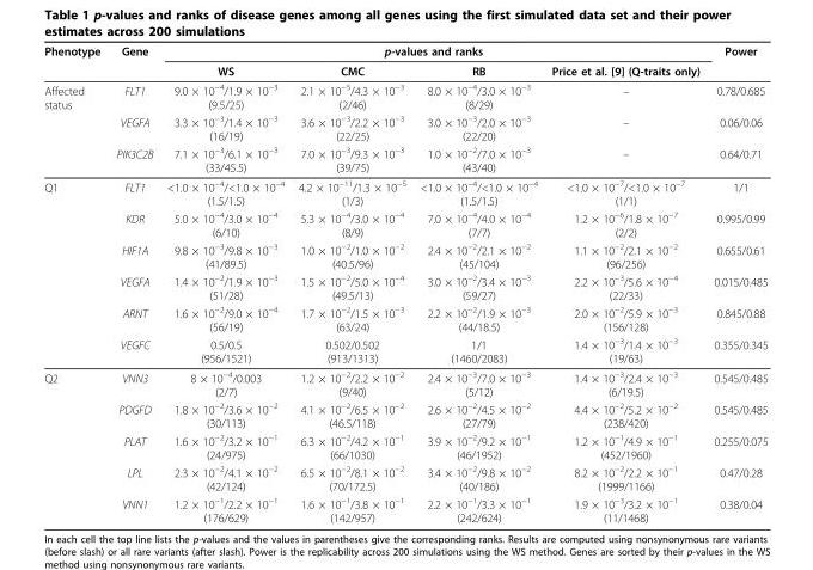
<table><thead><tr><td rowspan="2">Phenotype</td><td rowspan="2">Gene</td><td colspan="4">p-values and ranks</td><td rowspan="2">Power</td></tr><tr><td>WS</td><td>CMC</td><td>RB</td><td>Price et al. [9] (Q-traits only)</td></tr></thead><tbody><tr><td rowspan="3">Affected status</td><td>FLT1</td><td>9.0 × 10<sup>−4</sup>/1.9 × 10<sup>−3</sup> (9.5/25)</td><td>2.1 × 10<sup>−5</sup>/4.3 × 10<sup>−3</sup> (2/46)</td><td>8.0 × 10<sup>−4</sup>/3.0 × 10<sup>−3</sup> (8/29)</td><td>–</td><td>0.78/0.685</td></tr><tr><td>VEGFA</td><td>3.3 × 10<sup>−3</sup>/1.4 × 10<sup>−3</sup> (16/19)</td><td>3.6 × 10<sup>−3</sup>/2.2 × 10<sup>−3</sup> (22/25)</td><td>3.0 × 10<sup>−3</sup>/2.0 × 10<sup>−3</sup> (22/20)</td><td>–</td><td>0.06/0.06</td></tr><tr><td>PIK3C2B</td><td>7.1 × 10<sup>−3</sup>/6.1 × 10<sup>−3</sup> (33/45.5)</td><td>7.0 × 10<sup>−3</sup>/9.3 × 10<sup>−3</sup> (39/75)</td><td>1.0 × 10<sup>−2</sup>/7.0 × 10<sup>−3</sup> (43/40)</td><td>–</td><td>0.64/0.71</td></tr><tr><td rowspan="6">Q1</td><td>FLT1</td><td>&lt;1.0 × 10<sup>−4</sup>/&lt;1.0 × 10<sup>−4</sup> (1.5/1.5)</td><td>4.2 × 10<sup>−11</sup>/1.3 × 10<sup>−5</sup> (1/3)</td><td>&lt;1.0 × 10<sup>−4</sup>/&lt;1.0 × 10<sup>−4</sup> (1.5/1.5)</td><td>&lt;1.0 × 10<sup>−7</sup>/&lt;1.0 × 10<sup>−7</sup> (1/1)</td><td>1/1</td></tr><tr><td>KDR</td><td>5.0 × 10<sup>−4</sup>/3.0 × 10<sup>−4</sup> (6/10)</td><td>5.3 × 10<sup>−4</sup>/3.0 × 10<sup>−4</sup> (8/9)</td><td>7.0 × 10<sup>−4</sup>/4.0 × 10<sup>−4</sup> (7/7)</td><td>1.2 × 10<sup>−6</sup>/1.8 × 10<sup>−7</sup> (2/2)</td><td>0.995/0.99</td></tr><tr><td>HIF1A</td><td>9.8 × 10<sup>−3</sup>/9.8 × 10<sup>−3</sup> (41/89.5)</td><td>1.0 × 10<sup>−2</sup>/1.0 × 10<sup>−2</sup> (40.5/96)</td><td>2.4 × 10<sup>−2</sup>/2.1 × 10<sup>−2</sup> (45/104)</td><td>1.1 × 10<sup>−2</sup>/2.1 × 10<sup>−2</sup> (96/256)</td><td>0.655/0.61</td></tr><tr><td>VEGFA</td><td>1.4 × 10<sup>−2</sup>/1.9 × 10<sup>−3</sup> (51/28)</td><td>1.5 × 10<sup>−2</sup>/5.0 × 10<sup>−4</sup> (49.5/13)</td><td>3.0 × 10<sup>−2</sup>/3.4 × 10<sup>−3</sup> (59/27)</td><td>2.2 × 10<sup>−3</sup>/5.6 × 10<sup>−4</sup> (22/33)</td><td>0.015/0.485</td></tr><tr><td>ARNT</td><td>1.6 × 10<sup>−2</sup>/9.0 × 10<sup>−4</sup> (56/19)</td><td>1.7 × 10<sup>−2</sup>/1.5 × 10<sup>−3</sup> (63/24)</td><td>2.2 × 10<sup>−2</sup>/1.9 × 10<sup>−3</sup> (44/18.5)</td><td>2.0 × 10<sup>−2</sup>/5.9 × 10<sup>−3</sup> (156/128)</td><td>0.845/0.88</td></tr><tr><td>VEGFC</td><td>0.5/0.5 (956/1521)</td><td>0.502/0.502 (913/1313)</td><td>1/1 (1460/2083)</td><td>1.4 × 10<sup>−3</sup>/1.4 × 10<sup>−3</sup> (19/63)</td><td>0.355/0.345</td></tr><tr><td rowspan="5">Q2</td><td>VNN3</td><td>8 × 10<sup>−4</sup>/0.003 (2/7)</td><td>1.2 × 10<sup>−2</sup>/2.2 × 10<sup>−2</sup> (9/40)</td><td>2.4 × 10<sup>−3</sup>/7.0 × 10<sup>−3</sup> (5/12)</td><td>1.4 × 10<sup>−3</sup>/2.4 × 10<sup>−3</sup> (6/19.5)</td><td>0.545/0.485</td></tr><tr><td>PDGFD</td><td>1.8 × 10<sup>−2</sup>/3.6 × 10<sup>−2</sup> (30/113)</td><td>4.1 × 10<sup>−2</sup>/6.5 × 10<sup>−2</sup> (46.5/118)</td><td>2.6 × 10<sup>−2</sup>/4.5 × 10<sup>−2</sup> (27/79)</td><td>4.4 × 10<sup>−2</sup>/5.2 × 10<sup>−2</sup> (238/420)</td><td>0.545/0.485</td></tr><tr><td>PLAT</td><td>1.6 × 10<sup>−2</sup>/3.2 × 10<sup>−1</sup> (24/975)</td><td>6.3 × 10<sup>−2</sup>/4.2 × 10<sup>−1</sup> (66/1030)</td><td>3.9 × 10<sup>−2</sup>/9.2 × 10<sup>−1</sup> (46/1952)</td><td>1.2 × 10<sup>−1</sup>/4.9 × 10<sup>−1</sup> (452/1960)</td><td>0.255/0.075</td></tr><tr><td>LPL</td><td>2.3 × 10<sup>−2</sup>/4.1 × 10<sup>−2</sup> (42/124)</td><td>6.5 × 10<sup>−2</sup>/8.1 × 10<sup>−2</sup> (70/172.5)</td><td>3.4 × 10<sup>−2</sup>/9.8 × 10<sup>−2</sup> (40/186)</td><td>8.2 × 10<sup>−2</sup>/2.2 × 10<sup>−1</sup> (1999/1166)</td><td>0.47/0.28</td></tr><tr><td>VNN1</td><td>1.2 × 10<sup>−1</sup>/2.2 × 10<sup>−1</sup> (176/629)</td><td>1.6 × 10<sup>−1</sup>/3.8 × 10<sup>−1</sup> (142/957)</td><td>2.2 × 10<sup>−1</sup>/3.3 × 10<sup>−1</sup> (242/624)</td><td>1.9 × 10<sup>−3</sup>/3.2 × 10<sup>−1</sup> (11/1468)</td><td>0.38/0.04</td></tr></tbody></table>